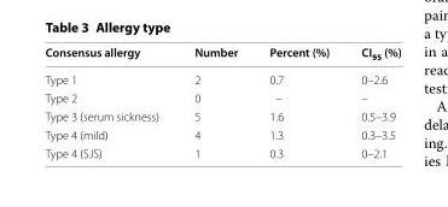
<table><thead><tr><td>Consensus allergy</td><td>Number</td><td>Percent (%)</td><td>CI<sub>95</sub> (%)</td></tr></thead><tbody><tr><td>Type 1</td><td>2</td><td>0.7</td><td>0–2.6</td></tr><tr><td>Type 2</td><td>0</td><td>–</td><td>–</td></tr><tr><td>Type 3 (serum sickness)</td><td>5</td><td>1.6</td><td>0.5–3.9</td></tr><tr><td>Type 4 (mild)</td><td>4</td><td>1.3</td><td>0.3–3.5</td></tr><tr><td>Type 4 (SJS)</td><td>1</td><td>0.3</td><td>0–2.1</td></tr></tbody></table>